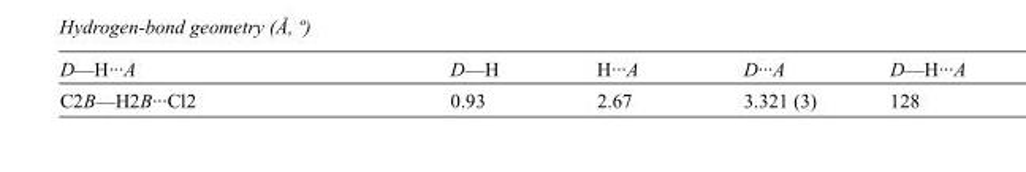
<table><tbody><tr><td>D—H···A</td><td>D—H</td><td>H···A</td><td>D···A</td><td>D—H···A</td></tr><tr><td>C2B—H2B···Cl2</td><td>0.93</td><td>2.67</td><td>3.321 (3)</td><td>128</td></tr></tbody></table>